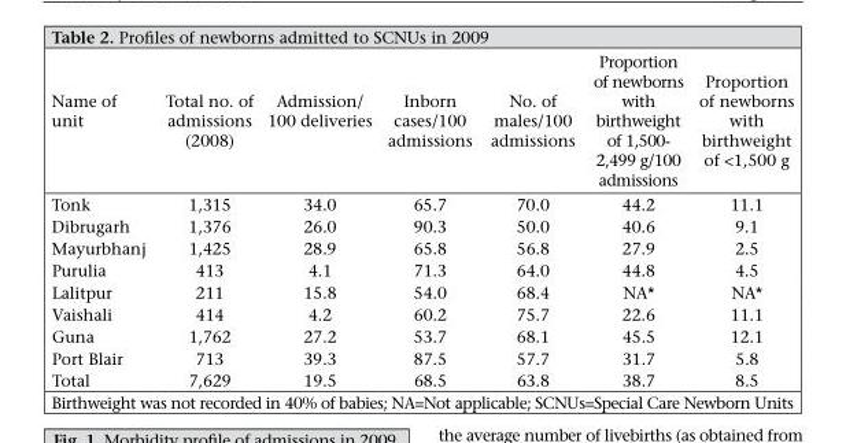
<table><thead><tr><td>Name of unit</td><td>Total no. of admissions (2008)</td><td>Admission/ 100 deliveries</td><td>Inborn cases/100 admissions</td><td>No. of males/100 admissions</td><td>Proportion of newborns with birthweight of 1,500- 2,499 g/100 admissions</td><td>Proportion of newborns with birthweight of &lt;1,500 g</td></tr></thead><tbody><tr><td>Tonk</td><td>1,315</td><td>34.0</td><td>65.7</td><td>70.0</td><td>44.2</td><td>11.1</td></tr><tr><td>Dibrugarh</td><td>1,376</td><td>26.0</td><td>90.3</td><td>50.0</td><td>40.6</td><td>9.1</td></tr><tr><td>Mayurbhanj</td><td>1,425</td><td>28.9</td><td>65.8</td><td>56.8</td><td>27.9</td><td>2.5</td></tr><tr><td>Purulia</td><td>413</td><td>4.1</td><td>71.3</td><td>64.0</td><td>44.8</td><td>4.5</td></tr><tr><td>Lalitpur</td><td>211</td><td>15.8</td><td>54.0</td><td>68.4</td><td>NA*</td><td>NA*</td></tr><tr><td>Vaishali</td><td>414</td><td>4.2</td><td>60.2</td><td>75.7</td><td>22.6</td><td>11.1</td></tr><tr><td>Guna</td><td>1,762</td><td>27.2</td><td>53.7</td><td>68.1</td><td>45.5</td><td>12.1</td></tr><tr><td>Port Blair</td><td>713</td><td>39.3</td><td>87.5</td><td>57.7</td><td>31.7</td><td>5.8</td></tr><tr><td>Total</td><td>7,629</td><td>19.5</td><td>68.5</td><td>63.8</td><td>38.7</td><td>8.5</td></tr></tbody></table>